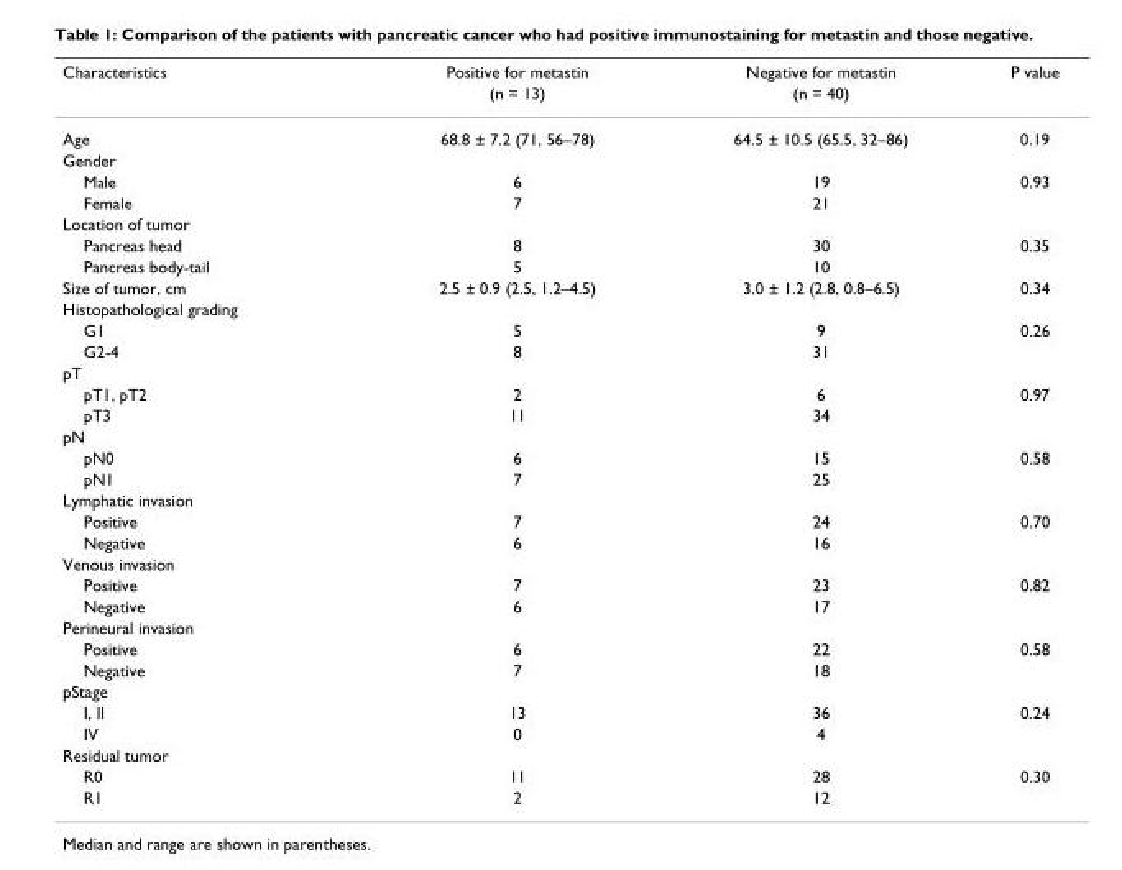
<table><thead><tr><td rowspan="2">Characteristics</td><td rowspan="2">Positive for metastin (n = 13)</td><td rowspan="2">Negative for metastin (n = 40)</td><td rowspan="2">P value</td></tr><tr></tr></thead><tbody><tr><td>Age</td><td>68.8 ± 7.2 (71, 56–78)</td><td>64.5 ± 10.5 (65.5, 32–86)</td><td>0.19</td></tr><tr><td colspan="4">Gender</td></tr><tr><td>Male</td><td>6</td><td>19</td><td>0.93</td></tr><tr><td>Female</td><td>7</td><td>21</td><td></td></tr><tr><td colspan="4">Location of tumor</td></tr><tr><td>Pancreas head</td><td>8</td><td>30</td><td>0.35</td></tr><tr><td>Pancreas body-tail</td><td>5</td><td>10</td><td></td></tr><tr><td>Size of tumor, cm</td><td>2.5 ± 0.9 (2.5, 1.2–4.5)</td><td>3.0 ± 1.2 (2.8, 0.8–6.5)</td><td>0.34</td></tr><tr><td colspan="4">Histopathological grading</td></tr><tr><td>G1</td><td>5</td><td>9</td><td>0.26</td></tr><tr><td>G2-4</td><td>8</td><td>31</td><td></td></tr><tr><td colspan="4">pT</td></tr><tr><td>pT1, pT2</td><td>2</td><td>6</td><td>0.97</td></tr><tr><td>pT3</td><td>11</td><td>34</td><td></td></tr><tr><td colspan="4">pN</td></tr><tr><td>pN0</td><td>6</td><td>15</td><td>0.58</td></tr><tr><td>pN1</td><td>7</td><td>25</td><td></td></tr><tr><td colspan="4">Lymphatic invasion</td></tr><tr><td>Positive</td><td>7</td><td>24</td><td>0.70</td></tr><tr><td>Negative</td><td>6</td><td>16</td><td></td></tr><tr><td colspan="4">Venous invasion</td></tr><tr><td>Positive</td><td>7</td><td>23</td><td>0.82</td></tr><tr><td>Negative</td><td>6</td><td>17</td><td></td></tr><tr><td colspan="4">Perineural invasion</td></tr><tr><td>Positive</td><td>6</td><td>22</td><td>0.58</td></tr><tr><td>Negative</td><td>7</td><td>18</td><td></td></tr><tr><td colspan="4">pStage</td></tr><tr><td>I, II</td><td>13</td><td>36</td><td>0.24</td></tr><tr><td>IV</td><td>0</td><td>4</td><td></td></tr><tr><td colspan="4">Residual tumor</td></tr><tr><td>R0</td><td>11</td><td>28</td><td>0.30</td></tr><tr><td>R1</td><td>2</td><td>12</td><td></td></tr></tbody></table>